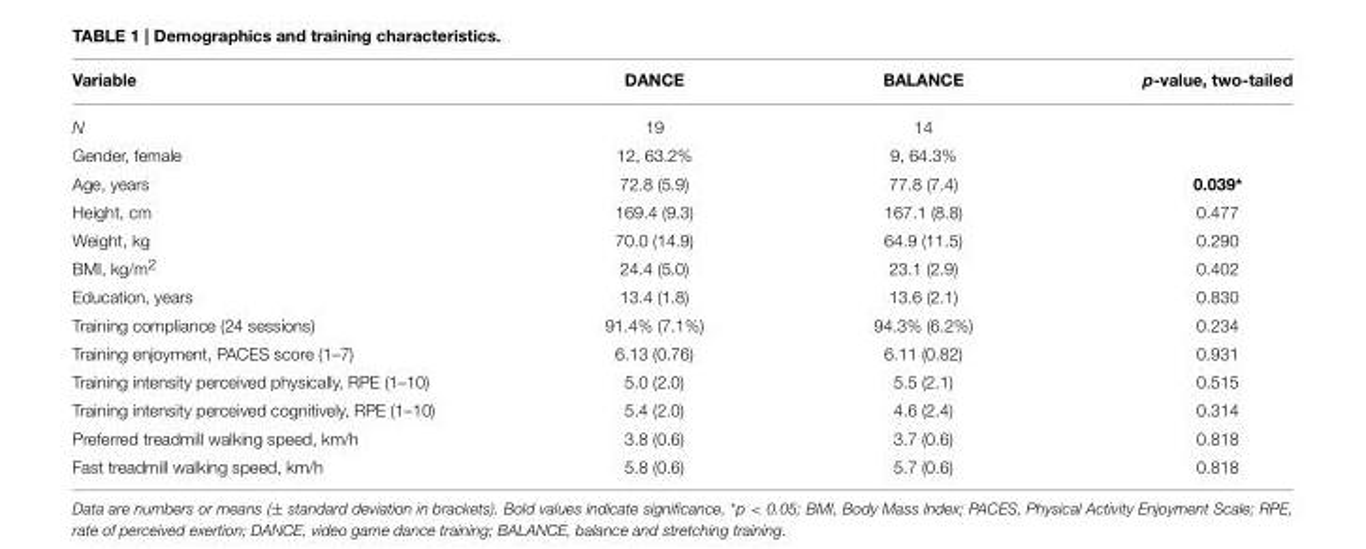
<table><thead><tr><td>Variable</td><td>DANCE</td><td>BALANCE</td><td>p-value, two-tailed</td></tr></thead><tbody><tr><td>N</td><td>19</td><td>14</td><td></td></tr><tr><td>Gender, female</td><td>12, 63.2%</td><td>9, 64.3%</td><td></td></tr><tr><td>Age, years</td><td>72.8 (5.9)</td><td>77.8 (7.4)</td><td>0.039*</td></tr><tr><td>Height, cm</td><td>169.4 (9.3)</td><td>167.1 (8.8)</td><td>0.477</td></tr><tr><td>Weight, kg</td><td>70.0 (14.9)</td><td>64.9 (11.5)</td><td>0.290</td></tr><tr><td>BMI, kg/m<sup>2</sup></td><td>24.4 (5.0)</td><td>23.1 (2.9)</td><td>0.402</td></tr><tr><td>Education, years</td><td>13.4 (1.8)</td><td>13.6 (2.1)</td><td>0.830</td></tr><tr><td>Training compliance (24 sessions)</td><td>91.4% (7.1%)</td><td>94.3% (6.2%)</td><td>0.234</td></tr><tr><td>Training enjoyment, PACES score (1–7)</td><td>6.13 (0.76)</td><td>6.11 (0.82)</td><td>0.931</td></tr><tr><td>Training intensity perceived physically, RPE (1–10)</td><td>5.0 (2.0)</td><td>5.5 (2.1)</td><td>0.515</td></tr><tr><td>Training intensity perceived cognitively, RPE (1–10)</td><td>5.4 (2.0)</td><td>4.6 (2.4)</td><td>0.314</td></tr><tr><td>Preferred treadmill walking speed, km/h</td><td>3.8 (0.6)</td><td>3.7 (0.6)</td><td>0.818</td></tr><tr><td>Fast treadmill walking speed, km/h</td><td>5.8 (0.6)</td><td>5.7 (0.6)</td><td>0.818</td></tr></tbody></table>